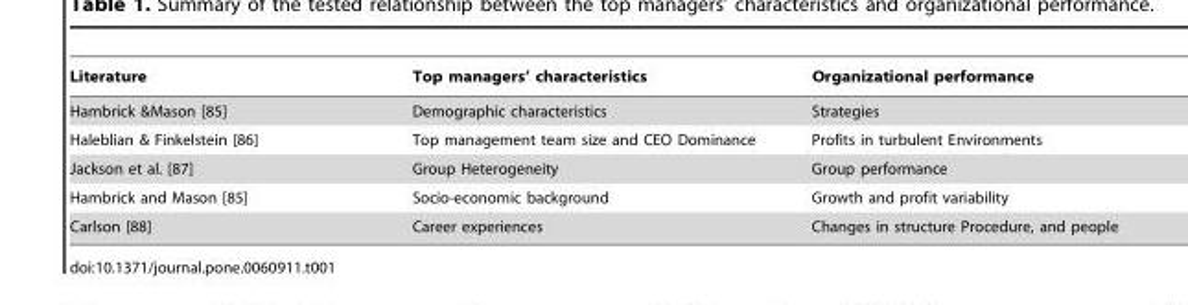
<table><thead><tr><td>Literature</td><td>Top managers’ characteristics</td><td>Organizational performance</td></tr></thead><tbody><tr><td>Hambrick &amp;Mason [85]</td><td>Demographic characteristics</td><td>Strategies</td></tr><tr><td>Haleblian &amp; Finkelstein [86]</td><td>Top management team size and CEO Dominance</td><td>Profits in turbulent Environments</td></tr><tr><td>Jackson et al. [87]</td><td>Group Heterogeneity</td><td>Group performance</td></tr><tr><td>Hambrick and Mason [85]</td><td>Socio-economic background</td><td>Growth and profit variability</td></tr><tr><td>Carlson [88]</td><td>Career experiences</td><td>Changes in structure Procedure, and people</td></tr></tbody></table>